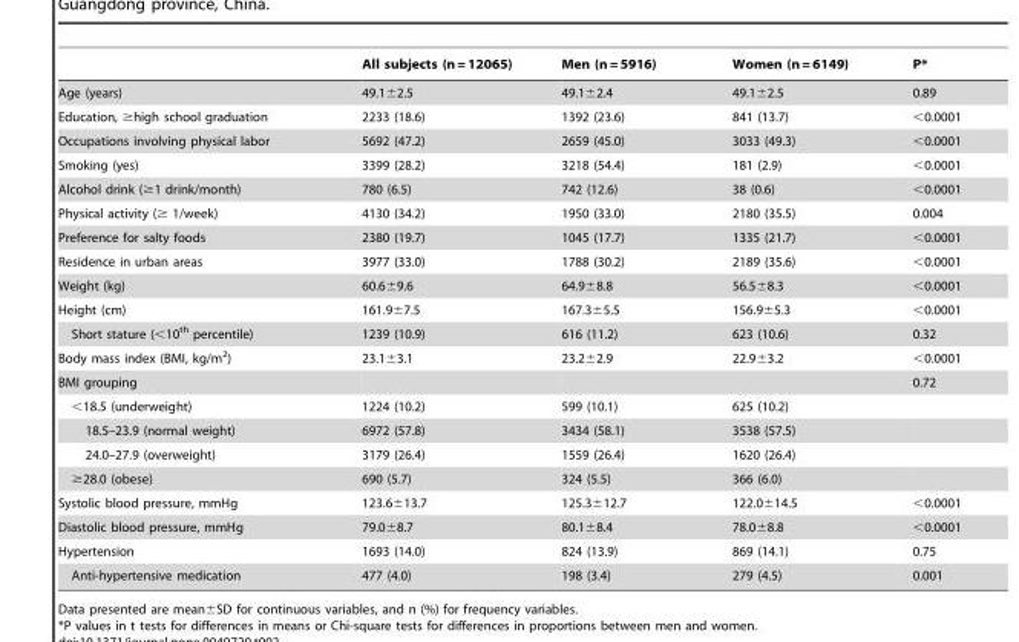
<table><thead><tr><td></td><td>All subjects (n = 12065)</td><td>Men (n = 5916)</td><td>Women (n = 6149)</td><td>P*</td></tr></thead><tbody><tr><td>Age (years)</td><td>49.1±2.5</td><td>49.1±2.4</td><td>49.1±2.5</td><td>0.89</td></tr><tr><td>Education, ≥high school graduation</td><td>2233 (18.6)</td><td>1392 (23.6)</td><td>841 (13.7)</td><td>&lt;0.0001</td></tr><tr><td>Occupations involving physical labor</td><td>5692 (47.2)</td><td>2659 (45.0)</td><td>3033 (49.3)</td><td>&lt;0.0001</td></tr><tr><td>Smoking (yes)</td><td>3399 (28.2)</td><td>3218 (54.4)</td><td>181 (2.9)</td><td>&lt;0.0001</td></tr><tr><td>Alcohol drink (≥1 drink/month)</td><td>780 (6.5)</td><td>742 (12.6)</td><td>38 (0.6)</td><td>&lt;0.0001</td></tr><tr><td>Physical activity (≥ 1/week)</td><td>4130 (34.2)</td><td>1950 (33.0)</td><td>2180 (35.5)</td><td>0.004</td></tr><tr><td>Preference for salty foods</td><td>2380 (19.7)</td><td>1045 (17.7)</td><td>1335 (21.7)</td><td>&lt;0.0001</td></tr><tr><td>Residence in urban areas</td><td>3977 (33.0)</td><td>1788 (30.2)</td><td>2189 (35.6)</td><td>&lt;0.0001</td></tr><tr><td>Weight (kg)</td><td>60.6±9.6</td><td>64.9±8.8</td><td>56.5±8.3</td><td>&lt;0.0001</td></tr><tr><td>Height (cm)</td><td>161.9±7.5</td><td>167.3±5.5</td><td>156.9±5.3</td><td>&lt;0.0001</td></tr><tr><td>Short stature (&lt;10<sup>th</sup> percentile)</td><td>1239 (10.9)</td><td>616 (11.2)</td><td>623 (10.6)</td><td>0.32</td></tr><tr><td>Body mass index (BMI, kg/m<sup>2</sup>)</td><td>23.1±3.1</td><td>23.2±2.9</td><td>22.9±3.2</td><td>&lt;0.0001</td></tr><tr><td>BMI grouping</td><td></td><td></td><td></td><td>0.72</td></tr><tr><td>&lt;18.5 (underweight)</td><td>1224 (10.2)</td><td>599 (10.1)</td><td>625 (10.2)</td><td></td></tr><tr><td>18.5–23.9 (normal weight)</td><td>6972 (57.8)</td><td>3434 (58.1)</td><td>3538 (57.5)</td><td></td></tr><tr><td>24.0–27.9 (overweight)</td><td>3179 (26.4)</td><td>1559 (26.4)</td><td>1620 (26.4)</td><td></td></tr><tr><td>≥28.0 (obese)</td><td>690 (5.7)</td><td>324 (5.5)</td><td>366 (6.0)</td><td></td></tr><tr><td>Systolic blood pressure, mmHg</td><td>123.6±13.7</td><td>125.3±12.7</td><td>122.0±14.5</td><td>&lt;0.0001</td></tr><tr><td>Diastolic blood pressure, mmHg</td><td>79.0±8.7</td><td>80.1±8.4</td><td>78.0±8.8</td><td>&lt;0.0001</td></tr><tr><td>Hypertension</td><td>1693 (14.0)</td><td>824 (13.9)</td><td>869 (14.1)</td><td>0.75</td></tr><tr><td>Anti-hypertensive medication</td><td>477 (4.0)</td><td>198 (3.4)</td><td>279 (4.5)</td><td>0.001</td></tr></tbody></table>